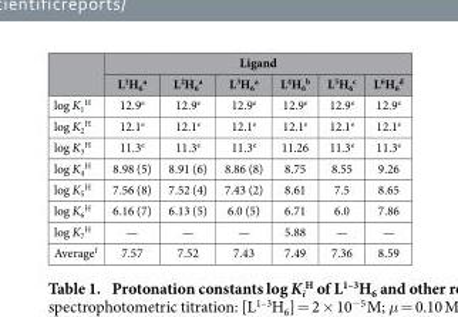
<table><thead><tr><td rowspan="2"></td><td colspan="6">Ligand</td></tr><tr><td>L<sup>1</sup>H<sub>6</sub> <sup>a</sup></td><td>L<sup>2</sup>H<sub>6</sub> <sup>a</sup></td><td>L<sup>3</sup>H<sub>6</sub> <sup>a</sup></td><td>L<sup>4</sup>H<sub>6</sub> <sup>b</sup></td><td>L<sup>5</sup>H<sub>6</sub> <sup>c</sup></td><td>L<sup>6</sup>H<sub>6</sub> <sup>d</sup></td></tr></thead><tbody><tr><td>log K<sub>1</sub> <sup>H</sup></td><td>12.9<sup>e</sup></td><td>12.9<sup>e</sup></td><td>12.9<sup>e</sup></td><td>12.9<sup>e</sup></td><td>12.9<sup>e</sup></td><td>12.9<sup>e</sup></td></tr><tr><td>log K<sub>2</sub> <sup>H</sup></td><td>12.1<sup>e</sup></td><td>12.1<sup>e</sup></td><td>12.1<sup>e</sup></td><td>12.1<sup>e</sup></td><td>12.1<sup>e</sup></td><td>12.1<sup>e</sup></td></tr><tr><td>log K<sub>3</sub> <sup>H</sup></td><td>11.3<sup>e</sup></td><td>11.3<sup>e</sup></td><td>11.3<sup>e</sup></td><td>11.26</td><td>11.3<sup>e</sup></td><td>11.3<sup>e</sup></td></tr><tr><td>log K<sub>4</sub> <sup>H</sup></td><td>8.98 (5)</td><td>8.91 (6)</td><td>8.86 (8)</td><td>8.75</td><td>8.55</td><td>9.26</td></tr><tr><td>log K<sub>5</sub> <sup>H</sup></td><td>7.56 (8)</td><td>7.52 (4)</td><td>7.43 (2)</td><td>8.61</td><td>7.5</td><td>8.65</td></tr><tr><td>log K<sub>6</sub> <sup>H</sup></td><td>6.16 (7)</td><td>6.13 (5)</td><td>6.0 (5)</td><td>6.71</td><td>6.0</td><td>7.86</td></tr><tr><td>log K<sub>7</sub> <sup>H</sup></td><td>—</td><td>—</td><td>—</td><td>5.88</td><td>—</td><td>—</td></tr><tr><td>Average<sup>f</sup></td><td>7.57</td><td>7.52</td><td>7.43</td><td>7.49</td><td>7.36</td><td>8.59</td></tr></tbody></table>